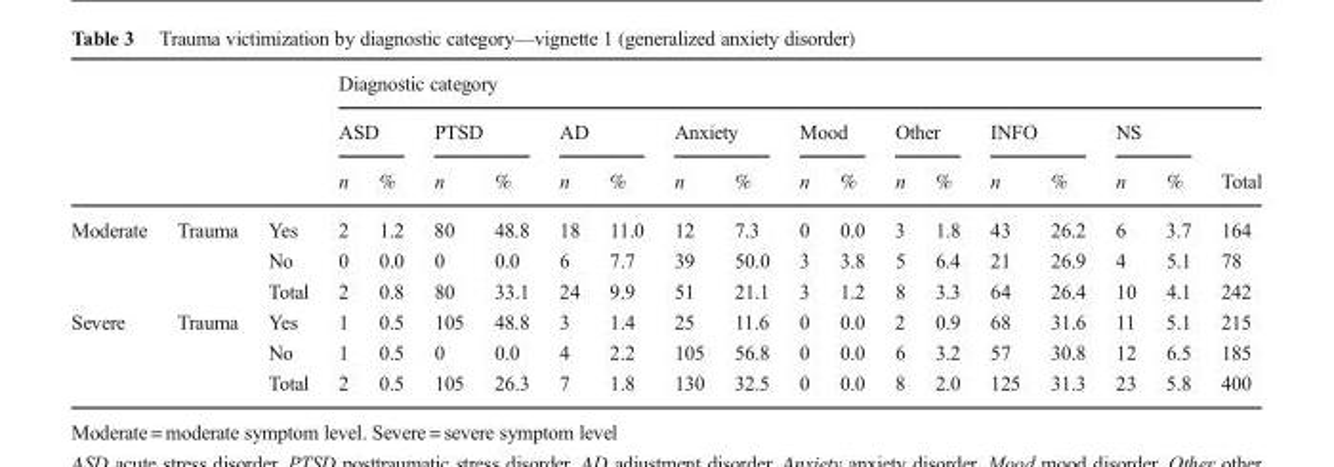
<table><thead><tr><td rowspan="3"></td><td rowspan="3"></td><td rowspan="3"></td><td colspan="17">Diagnostic category</td></tr><tr><td colspan="2">ASD</td><td colspan="2">PTSD</td><td colspan="2">AD</td><td colspan="2">Anxiety</td><td colspan="2">Mood</td><td colspan="2">Other</td><td colspan="2">INFO</td><td colspan="2">NS</td><td rowspan="2">Total</td></tr><tr><td>n</td><td>%</td><td>n</td><td>%</td><td>n</td><td>%</td><td>n</td><td>%</td><td>n</td><td>%</td><td>n</td><td>%</td><td>n</td><td>%</td><td>n</td><td>%</td></tr></thead><tbody><tr><td rowspan="3">Moderate</td><td rowspan="2">Trauma</td><td>Yes</td><td>2</td><td>1.2</td><td>80</td><td>48.8</td><td>18</td><td>11.0</td><td>12</td><td>7.3</td><td>0</td><td>0.0</td><td>3</td><td>1.8</td><td>43</td><td>26.2</td><td>6</td><td>3.7</td><td>164</td></tr><tr><td>No</td><td>0</td><td>0.0</td><td>0</td><td>0.0</td><td>6</td><td>7.7</td><td>39</td><td>50.0</td><td>3</td><td>3.8</td><td>5</td><td>6.4</td><td>21</td><td>26.9</td><td>4</td><td>5.1</td><td>78</td></tr><tr><td></td><td>Total</td><td>2</td><td>0.8</td><td>80</td><td>33.1</td><td>24</td><td>9.9</td><td>51</td><td>21.1</td><td>3</td><td>1.2</td><td>8</td><td>3.3</td><td>64</td><td>26.4</td><td>10</td><td>4.1</td><td>242</td></tr><tr><td rowspan="3">Severe</td><td rowspan="2">Trauma</td><td>Yes</td><td>1</td><td>0.5</td><td>105</td><td>48.8</td><td>3</td><td>1.4</td><td>25</td><td>11.6</td><td>0</td><td>0.0</td><td>2</td><td>0.9</td><td>68</td><td>31.6</td><td>11</td><td>5.1</td><td>215</td></tr><tr><td>No</td><td>1</td><td>0.5</td><td>0</td><td>0.0</td><td>4</td><td>2.2</td><td>105</td><td>56.8</td><td>0</td><td>0.0</td><td>6</td><td>3.2</td><td>57</td><td>30.8</td><td>12</td><td>6.5</td><td>185</td></tr><tr><td></td><td>Total</td><td>2</td><td>0.5</td><td>105</td><td>26.3</td><td>7</td><td>1.8</td><td>130</td><td>32.5</td><td>0</td><td>0.0</td><td>8</td><td>2.0</td><td>125</td><td>31.3</td><td>23</td><td>5.8</td><td>400</td></tr></tbody></table>